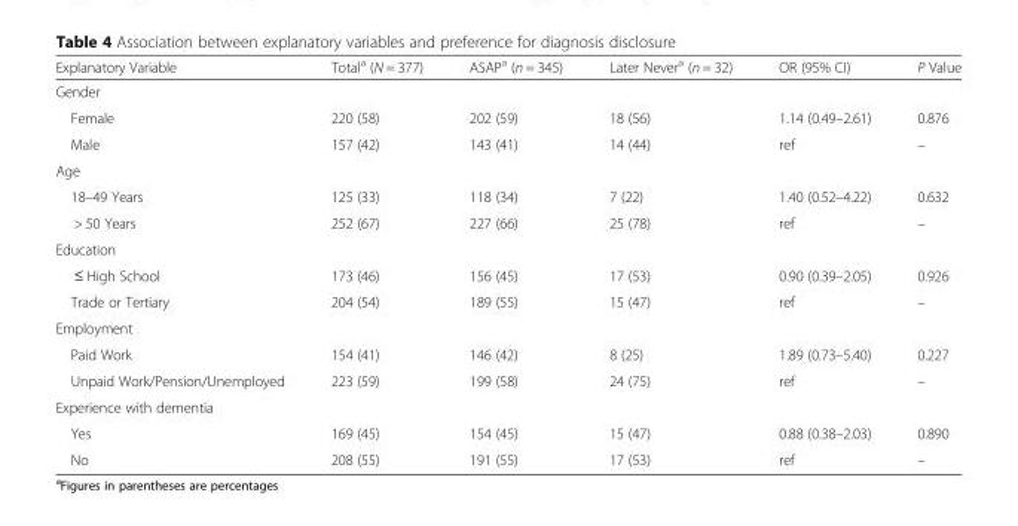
<table><thead><tr><td>Explanatory Variable</td><td>Total<sup>a</sup> (N = 377)</td><td>ASAP<sup>a</sup> (n = 345)</td><td>Later Never<sup>a</sup> (n = 32)</td><td>OR (95% CI)</td><td>P Value</td></tr></thead><tbody><tr><td colspan="6">Gender</td></tr><tr><td>Female</td><td>220 (58)</td><td>202 (59)</td><td>18 (56)</td><td>1.14 (0.49–2.61)</td><td>0.876</td></tr><tr><td>Male</td><td>157 (42)</td><td>143 (41)</td><td>14 (44)</td><td>ref</td><td>–</td></tr><tr><td colspan="6">Age</td></tr><tr><td>18–49 Years</td><td>125 (33)</td><td>118 (34)</td><td>7 (22)</td><td>1.40 (0.52–4.22)</td><td>0.632</td></tr><tr><td>&gt; 50 Years</td><td>252 (67)</td><td>227 (66)</td><td>25 (78)</td><td>ref</td><td>–</td></tr><tr><td colspan="6">Education</td></tr><tr><td>≤ High School</td><td>173 (46)</td><td>156 (45)</td><td>17 (53)</td><td>0.90 (0.39–2.05)</td><td>0.926</td></tr><tr><td>Trade or Tertiary</td><td>204 (54)</td><td>189 (55)</td><td>15 (47)</td><td>ref</td><td>–</td></tr><tr><td colspan="6">Employment</td></tr><tr><td>Paid Work</td><td>154 (41)</td><td>146 (42)</td><td>8 (25)</td><td>1.89 (0.73–5.40)</td><td>0.227</td></tr><tr><td>Unpaid Work/Pension/Unemployed</td><td>223 (59)</td><td>199 (58)</td><td>24 (75)</td><td>ref</td><td>–</td></tr><tr><td colspan="6">Experience with dementia</td></tr><tr><td>Yes</td><td>169 (45)</td><td>154 (45)</td><td>15 (47)</td><td>0.88 (0.38–2.03)</td><td>0.890</td></tr><tr><td>No</td><td>208 (55)</td><td>191 (55)</td><td>17 (53)</td><td>ref</td><td>–</td></tr></tbody></table>